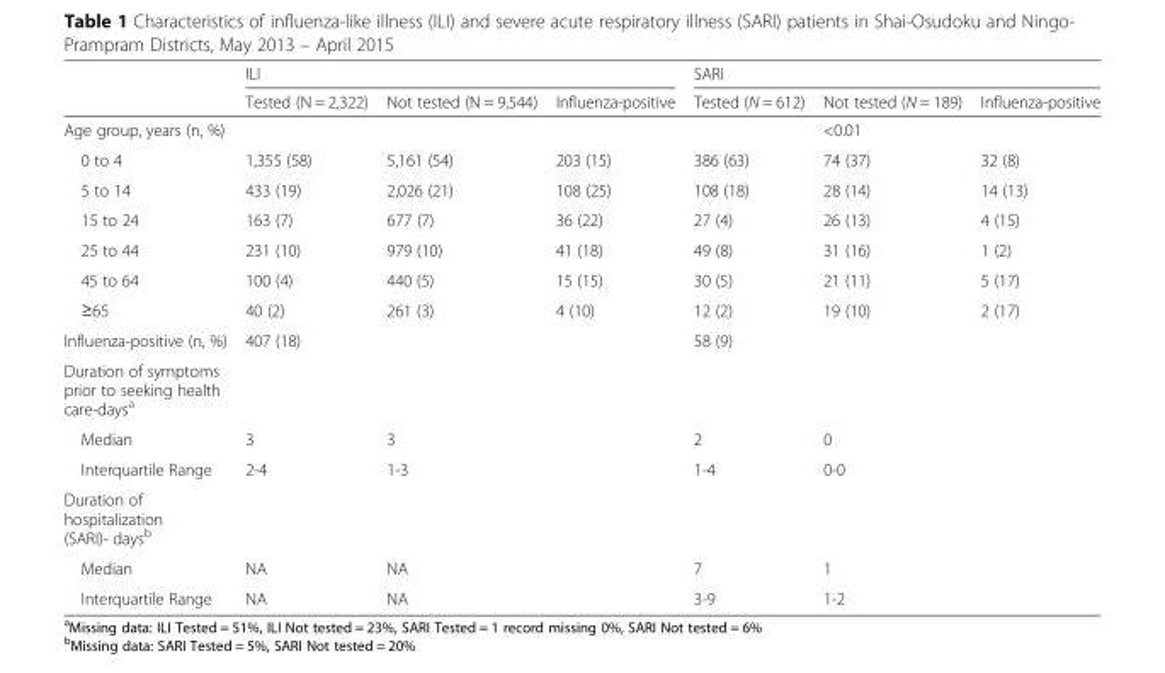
<table><thead><tr><td rowspan="2"></td><td colspan="3">ILI</td><td colspan="3">SARI</td></tr><tr><td>Tested (N = 2,322)</td><td>Not tested (N = 9,544)</td><td>Influenza-positive</td><td>Tested (N = 612)</td><td>Not tested (N = 189)</td><td>Influenza-positive</td></tr></thead><tbody><tr><td>Age group, years (n, %)</td><td></td><td></td><td></td><td></td><td>&lt;0.01</td><td></td></tr><tr><td>0 to 4</td><td>1,355 (58)</td><td>5,161 (54)</td><td>203 (15)</td><td>386 (63)</td><td>74 (37)</td><td>32 (8)</td></tr><tr><td>5 to 14</td><td>433 (19)</td><td>2,026 (21)</td><td>108 (25)</td><td>108 (18)</td><td>28 (14)</td><td>14 (13)</td></tr><tr><td>15 to 24</td><td>163 (7)</td><td>677 (7)</td><td>36 (22)</td><td>27 (4)</td><td>26 (13)</td><td>4 (15)</td></tr><tr><td>25 to 44</td><td>231 (10)</td><td>979 (10)</td><td>41 (18)</td><td>49 (8)</td><td>31 (16)</td><td>1 (2)</td></tr><tr><td>45 to 64</td><td>100 (4)</td><td>440 (5)</td><td>15 (15)</td><td>30 (5)</td><td>21 (11)</td><td>5 (17)</td></tr><tr><td>≥65</td><td>40 (2)</td><td>261 (3)</td><td>4 (10)</td><td>12 (2)</td><td>19 (10)</td><td>2 (17)</td></tr><tr><td>Influenza-positive (n, %)</td><td>407 (18)</td><td></td><td></td><td>58 (9)</td><td></td><td></td></tr><tr><td colspan="7">Duration of symptoms prior to seeking health care-days<sup>a</sup></td></tr><tr><td>Median</td><td>3</td><td>3</td><td></td><td>2</td><td>0</td><td></td></tr><tr><td>Interquartile Range</td><td>2-4</td><td>1-3</td><td></td><td>1-4</td><td>0-0</td><td></td></tr><tr><td colspan="7">Duration of hospitalization (SARI)- days<sup>b</sup></td></tr><tr><td>Median</td><td>NA</td><td>NA</td><td></td><td>7</td><td>1</td><td></td></tr><tr><td>Interquartile Range</td><td>NA</td><td>NA</td><td></td><td>3-9</td><td>1-2</td><td></td></tr></tbody></table>